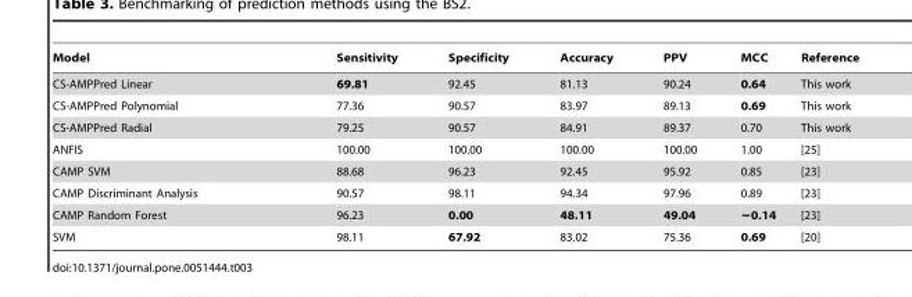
<table><thead><tr><td>Model</td><td>Sensitivity</td><td>Specificity</td><td>Accuracy</td><td>PPV</td><td>MCC</td><td>Reference</td></tr></thead><tbody><tr><td>CS-AMPPred Linear</td><td>69.81</td><td>92.45</td><td>81.13</td><td>90.24</td><td>0.64</td><td>This work</td></tr><tr><td>CS-AMPPred Polynomial</td><td>77.36</td><td>90.57</td><td>83.97</td><td>89.13</td><td>0.69</td><td>This work</td></tr><tr><td>CS-AMPPred Radial</td><td>79.25</td><td>90.57</td><td>84.91</td><td>89.37</td><td>0.70</td><td>This work</td></tr><tr><td>ANFIS</td><td>100.00</td><td>100.00</td><td>100.00</td><td>100.00</td><td>1.00</td><td>[25]</td></tr><tr><td>CAMP SVM</td><td>88.68</td><td>96.23</td><td>92.45</td><td>95.92</td><td>0.85</td><td>[23]</td></tr><tr><td>CAMP Discriminant Analysis</td><td>90.57</td><td>98.11</td><td>94.34</td><td>97.96</td><td>0.89</td><td>[23]</td></tr><tr><td>CAMP Random Forest</td><td>96.23</td><td>0.00</td><td>48.11</td><td>49.04</td><td>−0.14</td><td>[23]</td></tr><tr><td>SVM</td><td>98.11</td><td>67.92</td><td>83.02</td><td>75.36</td><td>0.69</td><td>[20]</td></tr></tbody></table>